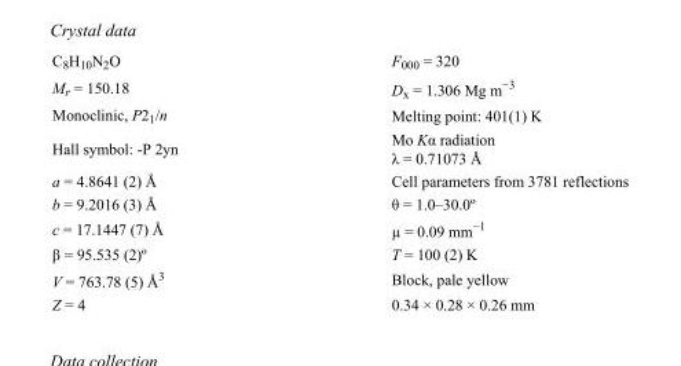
<table><tbody><tr><td>C<sub>8</sub>H<sub>10</sub>N<sub>2</sub>O</td><td>F000 = 320</td></tr><tr><td>M<sub>r</sub> = 150.18</td><td>D<sub>x</sub> = 1.306 Mg m<sup>−3</sup></td></tr><tr><td>Monoclinic, P2<sub>1</sub>/n</td><td>Melting point: 401(1) K</td></tr><tr><td>Hall symbol: -P 2yn</td><td>Mo Kα radiation λ = 0.71073 Å</td></tr><tr><td>a = 4.8641 (2) Å</td><td>Cell parameters from 3781 reflections</td></tr><tr><td>b = 9.2016 (3) Å</td><td>θ = 1.0–30.0º</td></tr><tr><td>c = 17.1447 (7) Å</td><td>µ = 0.09 mm<sup>−1</sup></td></tr><tr><td>β = 95.535 (2)º</td><td>T = 100 (2) K</td></tr><tr><td>V = 763.78 (5) Å<sup>3</sup></td><td>Block, pale yellow</td></tr><tr><td>Z = 4</td><td>0.34 × 0.28 × 0.26 mm</td></tr></tbody></table>